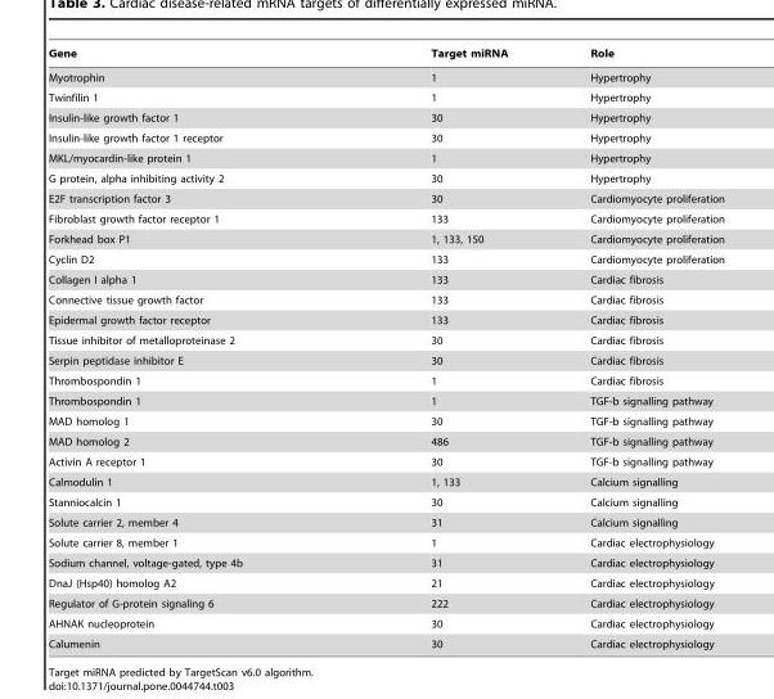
<table><thead><tr><td>Gene</td><td>Target miRNA</td><td>Role</td></tr></thead><tbody><tr><td>Myotrophin</td><td>1</td><td>Hypertrophy</td></tr><tr><td>Twinfilin 1</td><td>1</td><td>Hypertrophy</td></tr><tr><td>Insulin-like growth factor 1</td><td>30</td><td>Hypertrophy</td></tr><tr><td>Insulin-like growth factor 1 receptor</td><td>30</td><td>Hypertrophy</td></tr><tr><td>MKL/myocardin-like protein 1</td><td>1</td><td>Hypertrophy</td></tr><tr><td>G protein, alpha inhibiting activity 2</td><td>30</td><td>Hypertrophy</td></tr><tr><td>E2F transcription factor 3</td><td>30</td><td>Cardiomyocyte proliferation</td></tr><tr><td>Fibroblast growth factor receptor 1</td><td>133</td><td>Cardiomyocyte proliferation</td></tr><tr><td>Forkhead box P1</td><td>1, 133, 150</td><td>Cardiomyocyte proliferation</td></tr><tr><td>Cyclin D2</td><td>133</td><td>Cardiomyocyte proliferation</td></tr><tr><td>Collagen I alpha 1</td><td>133</td><td>Cardiac fibrosis</td></tr><tr><td>Connective tissue growth factor</td><td>133</td><td>Cardiac fibrosis</td></tr><tr><td>Epidermal growth factor receptor</td><td>133</td><td>Cardiac fibrosis</td></tr><tr><td>Tissue inhibitor of metalloproteinase 2</td><td>30</td><td>Cardiac fibrosis</td></tr><tr><td>Serpin peptidase inhibitor E</td><td>30</td><td>Cardiac fibrosis</td></tr><tr><td>Thrombospondin 1</td><td>1</td><td>Cardiac fibrosis</td></tr><tr><td>Thrombospondin 1</td><td>1</td><td>TGF-b signalling pathway</td></tr><tr><td>MAD homolog 1</td><td>30</td><td>TGF-b signalling pathway</td></tr><tr><td>MAD homolog 2</td><td>486</td><td>TGF-b signalling pathway</td></tr><tr><td>Activin A receptor 1</td><td>30</td><td>TGF-b signalling pathway</td></tr><tr><td>Calmodulin 1</td><td>1, 133</td><td>Calcium signalling</td></tr><tr><td>Stanniocalcin 1</td><td>30</td><td>Calcium signalling</td></tr><tr><td>Solute carrier 2, member 4</td><td>31</td><td>Calcium signalling</td></tr><tr><td>Solute carrier 8, member 1</td><td>1</td><td>Cardiac electrophysiology</td></tr><tr><td>Sodium channel, voltage-gated, type 4b</td><td>31</td><td>Cardiac electrophysiology</td></tr><tr><td>DnaJ (Hsp40) homolog A2</td><td>21</td><td>Cardiac electrophysiology</td></tr><tr><td>Regulator of G-protein signaling 6</td><td>222</td><td>Cardiac electrophysiology</td></tr><tr><td>AHNAK nucleoprotein</td><td>30</td><td>Cardiac electrophysiology</td></tr><tr><td>Calumenin</td><td>30</td><td>Cardiac electrophysiology</td></tr></tbody></table>